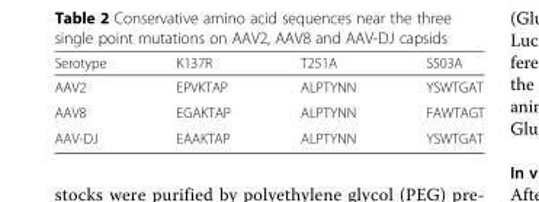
<table><thead><tr><td>Serotype</td><td>K137R</td><td>T251A</td><td>S503A</td></tr></thead><tbody><tr><td>AAV2</td><td>EPVKTAP</td><td>ALPTYNN</td><td>YSWTGAT</td></tr><tr><td>AAV8</td><td>EGAKTAP</td><td>ALPTYNN</td><td>FAWTAGT</td></tr><tr><td>AAV-DJ</td><td>EAAKTAP</td><td>ALPTYNN</td><td>YSWTGAT</td></tr></tbody></table>